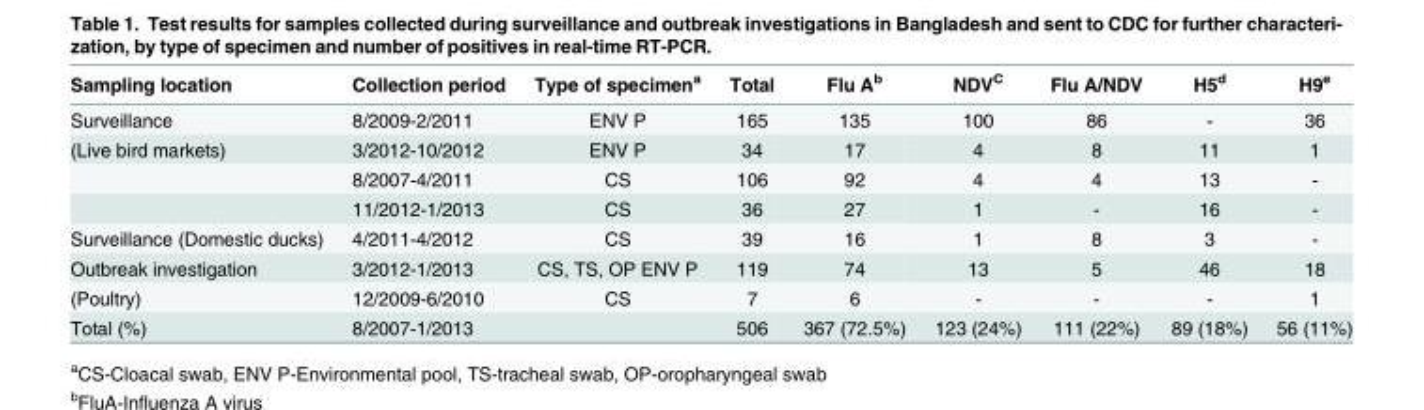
<table><thead><tr><td>Sampling location</td><td>Collection period</td><td>Type of specimen<sup>a</sup></td><td>Total</td><td>Flu A<sup>b</sup></td><td>NDV<sup>C</sup></td><td>Flu A/NDV</td><td>H5<sup>d</sup></td><td>H9<sup>e</sup></td></tr></thead><tbody><tr><td>Surveillance</td><td>8/2009-2/2011</td><td>ENV P</td><td>165</td><td>135</td><td>100</td><td>86</td><td>-</td><td>36</td></tr><tr><td rowspan="3">(Live bird markets)</td><td>3/2012-10/2012</td><td>ENV P</td><td>34</td><td>17</td><td>4</td><td>8</td><td>11</td><td>1</td></tr><tr><td>8/2007-4/2011</td><td>CS</td><td>106</td><td>92</td><td>4</td><td>4</td><td>13</td><td>-</td></tr><tr><td>11/2012-1/2013</td><td>CS</td><td>36</td><td>27</td><td>1</td><td>-</td><td>16</td><td>-</td></tr><tr><td>Surveillance (Domestic ducks)</td><td>4/2011-4/2012</td><td>CS</td><td>39</td><td>16</td><td>1</td><td>8</td><td>3</td><td>-</td></tr><tr><td>Outbreak investigation</td><td>3/2012-1/2013</td><td>CS, TS, OP ENV P</td><td>119</td><td>74</td><td>13</td><td>5</td><td>46</td><td>18</td></tr><tr><td>(Poultry)</td><td>12/2009-6/2010</td><td>CS</td><td>7</td><td>6</td><td>-</td><td>-</td><td>-</td><td>1</td></tr><tr><td>Total (%)</td><td>8/2007-1/2013</td><td></td><td>506</td><td>367 (72.5%)</td><td>123 (24%)</td><td>111 (22%)</td><td>89 (18%)</td><td>56 (11%)</td></tr></tbody></table>